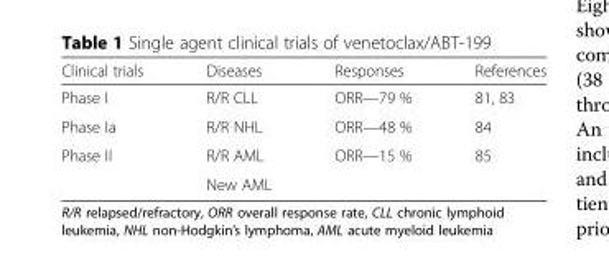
<table><thead><tr><td>Clinical trials</td><td>Diseases</td><td>Responses</td><td>References</td></tr></thead><tbody><tr><td>Phase I</td><td>R/R CLL</td><td>ORR—79 %</td><td>81, 83</td></tr><tr><td>Phase Ia</td><td>R/R NHL</td><td>ORR—48 %</td><td>84</td></tr><tr><td rowspan="2">Phase II</td><td>R/R AML</td><td rowspan="2">ORR—15 %</td><td rowspan="2">85</td></tr><tr><td>New AML</td></tr></tbody></table>